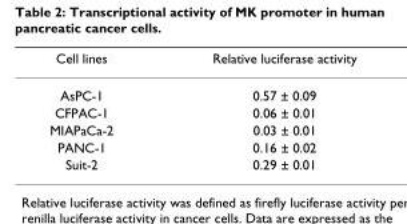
<table><thead><tr><td>Cell lines</td><td>Relative luciferase activity</td></tr></thead><tbody><tr><td>AsPC-1</td><td>0.57 ± 0.09</td></tr><tr><td>CFPAC-1</td><td>0.06 ± 0.01</td></tr><tr><td>MIAPaCa-2</td><td>0.03 ± 0.01</td></tr><tr><td>PANC-1</td><td>0.16 ± 0.02</td></tr><tr><td>Suit-2</td><td>0.29 ± 0.01</td></tr></tbody></table>